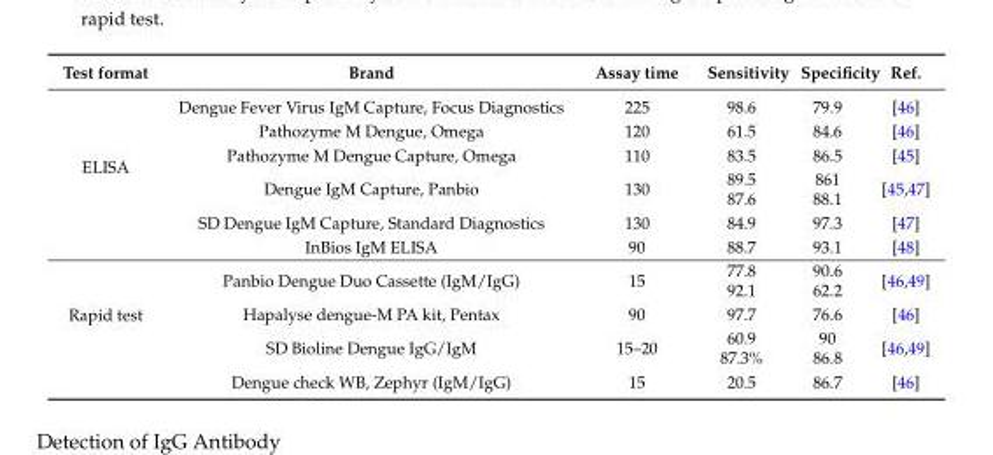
<table><thead><tr><td>Test format</td><td>Brand</td><td>Assay time</td><td>Sensitivity</td><td>Specificity</td><td>Ref.</td></tr></thead><tbody><tr><td rowspan="6">ELISA</td><td>Dengue Fever Virus IgM Capture, Focus Diagnostics</td><td>225</td><td>98.6</td><td>79.9</td><td>[46]</td></tr><tr><td>Pathozyme M Dengue, Omega</td><td>120</td><td>61.5</td><td>84.6</td><td>[46]</td></tr><tr><td>Pathozyme M Dengue Capture, Omega</td><td>110</td><td>83.5</td><td>86.5</td><td>[45]</td></tr><tr><td>Dengue IgM Capture, Panbio</td><td>130</td><td>89.5 87.6</td><td>861 88.1</td><td>[45,47]</td></tr><tr><td>SD Dengue IgM Capture, Standard Diagnostics</td><td>130</td><td>84.9</td><td>97.3</td><td>[47]</td></tr><tr><td>InBios IgM ELISA</td><td>90</td><td>88.7</td><td>93.1</td><td>[48]</td></tr><tr><td rowspan="4">Rapid test</td><td>Panbio Dengue Duo Cassette (IgM/IgG)</td><td>15</td><td>77.8 92.1</td><td>90.6 62.2</td><td>[46,49]</td></tr><tr><td>Hapalyse dengue-M PA kit, Pentax</td><td>90</td><td>97.7</td><td>76.6</td><td>[46]</td></tr><tr><td>SD Bioline Dengue IgG/IgM</td><td>15–20</td><td>60.9 87.3%</td><td>90 86.8</td><td>[46,49]</td></tr><tr><td>Dengue check WB, Zephyr (IgM/IgG)</td><td>15</td><td>20.5</td><td>86.7</td><td>[46]</td></tr></tbody></table>